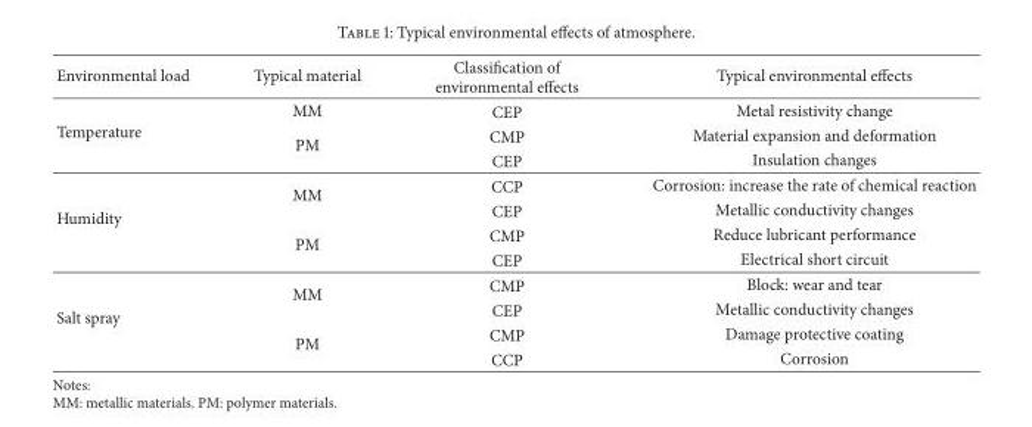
<table><thead><tr><td>Environmental load</td><td>Typical material</td><td>Classification of environmental effects</td><td>Typical environmental effects</td></tr></thead><tbody><tr><td rowspan="3">Temperature</td><td>MM</td><td>CEP</td><td>Metal resistivity change</td></tr><tr><td rowspan="2">PM</td><td>CMP</td><td>Material expansion and deformation</td></tr><tr><td>CEP</td><td>Insulation changes</td></tr><tr><td rowspan="4">Humidity</td><td rowspan="2">MM</td><td>CCP</td><td>Corrosion: increase the rate of chemical reaction</td></tr><tr><td>CEP</td><td>Metallic conductivity changes</td></tr><tr><td rowspan="2">PM</td><td>CMP</td><td>Reduce lubricant performance</td></tr><tr><td>CEP</td><td>Electrical short circuit</td></tr><tr><td rowspan="4">Salt spray</td><td rowspan="2">MM</td><td>CMP</td><td>Block: wear and tear</td></tr><tr><td>CEP</td><td>Metallic conductivity changes</td></tr><tr><td rowspan="2">PM</td><td>CMP</td><td>Damage protective coating</td></tr><tr><td>CCP</td><td>Corrosion</td></tr></tbody></table>